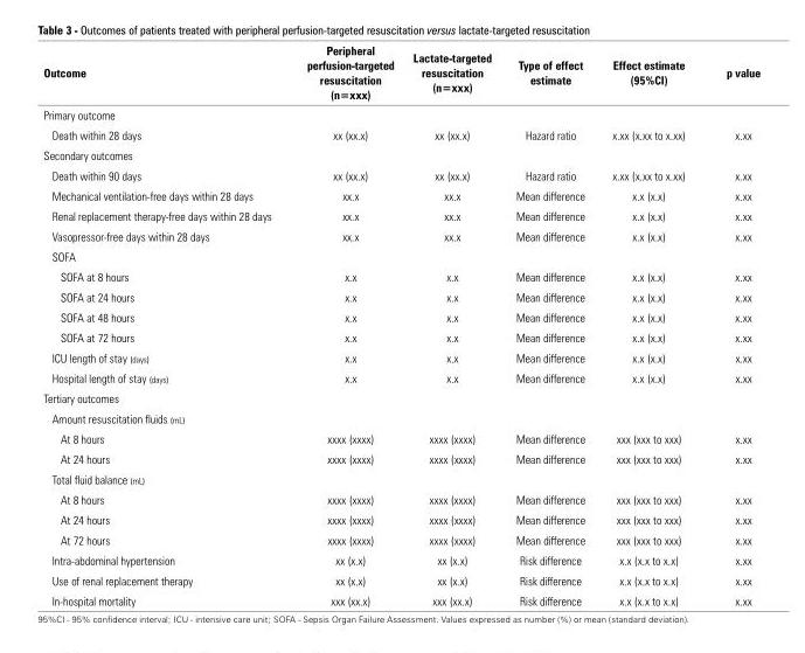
<table><thead><tr><td>Outcome</td><td>Peripheral perfusion-targeted resuscitation (n=xxx)</td><td>Lactate-targeted resuscitation (n=xxx)</td><td>Type of effect estimate</td><td>Effect estimate (95%CI)</td><td>p value</td></tr></thead><tbody><tr><td colspan="6">Primary outcome</td></tr><tr><td>Death within 28 days</td><td>xx (xx.x)</td><td>xx (xx.x)</td><td>Hazard ratio</td><td>x.xx (x.xx to x.xx)</td><td>x.xx</td></tr><tr><td colspan="6">Secondary outcomes</td></tr><tr><td>Death within 90 days</td><td>xx (xx.x)</td><td>xx (xx.x)</td><td>Hazard ratio</td><td>x.xx (x.xx to x.xx)</td><td>x.xx</td></tr><tr><td>Mechanical ventilation-free days within 28 days</td><td>xx.x</td><td>xx.x</td><td>Mean difference</td><td>x.x (x.x)</td><td>x.xx</td></tr><tr><td>Renal replacement therapy-free days within 28 days</td><td>xx.x</td><td>xx.x</td><td>Mean difference</td><td>x.x (x.x)</td><td>x.xx</td></tr><tr><td>Vasopressor-free days within 28 days</td><td>xx.x</td><td>xx.x</td><td>Mean difference</td><td>x.x (x.x)</td><td>x.xx</td></tr><tr><td colspan="6">SOFA</td></tr><tr><td>SOFA at 8 hours</td><td>x.x</td><td>x.x</td><td>Mean difference</td><td>x.x (x.x)</td><td>x.xx</td></tr><tr><td>SOFA at 24 hours</td><td>x.x</td><td>x.x</td><td>Mean difference</td><td>x.x (x.x)</td><td>x.xx</td></tr><tr><td>SOFA at 48 hours</td><td>x.x</td><td>x.x</td><td>Mean difference</td><td>x.x (x.x)</td><td>x.xx</td></tr><tr><td>SOFA at 72 hours</td><td>x.x</td><td>x.x</td><td>Mean difference</td><td>x.x (x.x)</td><td>x.xx</td></tr><tr><td>ICU length of stay (days)</td><td>x.x</td><td>x.x</td><td>Mean difference</td><td>x.x (x.x)</td><td>x.xx</td></tr><tr><td>Hospital length of stay (days)</td><td>x.x</td><td>x.x</td><td>Mean difference</td><td>x.x (x.x)</td><td>x.xx</td></tr><tr><td colspan="6">Tertiary outcomes</td></tr><tr><td colspan="6">Amount resuscitation fluids (mL)</td></tr><tr><td>At 8 hours</td><td>xxxx (xxxx)</td><td>xxxx (xxxx)</td><td>Mean difference</td><td>xxx (xxx to xxx)</td><td>x.xx</td></tr><tr><td>At 24 hours</td><td>xxxx (xxxx)</td><td>xxxx (xxxx)</td><td>Mean difference</td><td>xxx (xxx to xxx)</td><td>x.xx</td></tr><tr><td colspan="6">Total fluid balance (mL)</td></tr><tr><td>At 8 hours</td><td>xxxx (xxxx)</td><td>xxxx (xxxx)</td><td>Mean difference</td><td>xxx (xxx to xxx)</td><td>x.xx</td></tr><tr><td>At 24 hours</td><td>xxxx (xxxx)</td><td>xxxx (xxxx)</td><td>Mean difference</td><td>xxx (xxx to xxx)</td><td>x.xx</td></tr><tr><td>At 72 hours</td><td>xxxx (xxxx)</td><td>xxxx (xxxx)</td><td>Mean difference</td><td>xxx (xxx to xxx)</td><td>x.xx</td></tr><tr><td>Intra-abdominal hypertension</td><td>xx (x.x)</td><td>xx (x.x)</td><td>Risk difference</td><td>x.x (x.x to x.x)</td><td>x.xx</td></tr><tr><td>Use of renal replacement therapy</td><td>xx (x.x)</td><td>xx (x.x)</td><td>Risk difference</td><td>x.x (x.x to x.x)</td><td>x.xx</td></tr><tr><td>In-hospital mortality</td><td>xxx (xx.x)</td><td>xxx (xx.x)</td><td>Risk difference</td><td>x.x (x.x to x.x)</td><td>x.xx</td></tr></tbody></table>